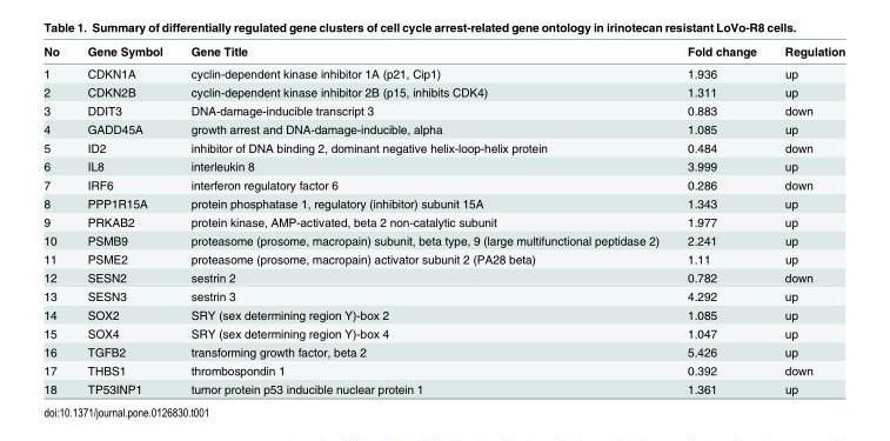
<table><thead><tr><td>No</td><td>Gene Symbol</td><td>Gene Title</td><td>Fold change</td><td>Regulation</td></tr></thead><tbody><tr><td>1</td><td>CDKN1A</td><td>cyclin-dependent kinase inhibitor 1A (p21, Cip1)</td><td>1.936</td><td>up</td></tr><tr><td>2</td><td>CDKN2B</td><td>cyclin-dependent kinase inhibitor 2B (p15, inhibits CDK4)</td><td>1.311</td><td>up</td></tr><tr><td>3</td><td>DDIT3</td><td>DNA-damage-inducible transcript 3</td><td>0.883</td><td>down</td></tr><tr><td>4</td><td>GADD45A</td><td>growth arrest and DNA-damage-inducible, alpha</td><td>1.085</td><td>up</td></tr><tr><td>5</td><td>ID2</td><td>inhibitor of DNA binding 2, dominant negative helix-loop-helix protein</td><td>0.484</td><td>down</td></tr><tr><td>6</td><td>IL8</td><td>interleukin 8</td><td>3.999</td><td>up</td></tr><tr><td>7</td><td>IRF6</td><td>interferon regulatory factor 6</td><td>0.286</td><td>down</td></tr><tr><td>8</td><td>PPP1R15A</td><td>protein phosphatase 1, regulatory (inhibitor) subunit 15A</td><td>1.343</td><td>up</td></tr><tr><td>9</td><td>PRKAB2</td><td>protein kinase, AMP-activated, beta 2 non-catalytic subunit</td><td>1.977</td><td>up</td></tr><tr><td>10</td><td>PSMB9</td><td>proteasome (prosome, macropain) subunit, beta type, 9 (large multifunctional peptidase 2)</td><td>2.241</td><td>up</td></tr><tr><td>11</td><td>PSME2</td><td>proteasome (prosome, macropain) activator subunit 2 (PA28 beta)</td><td>1.11</td><td>up</td></tr><tr><td>12</td><td>SESN2</td><td>sestrin 2</td><td>0.782</td><td>down</td></tr><tr><td>13</td><td>SESN3</td><td>sestrin 3</td><td>4.292</td><td>up</td></tr><tr><td>14</td><td>SOX2</td><td>SRY (sex determining region Y)-box 2</td><td>1.085</td><td>up</td></tr><tr><td>15</td><td>SOX4</td><td>SRY (sex determining region Y)-box 4</td><td>1.047</td><td>up</td></tr><tr><td>16</td><td>TGFB2</td><td>transforming growth factor, beta 2</td><td>5.426</td><td>up</td></tr><tr><td>17</td><td>THBS1</td><td>thrombospondin 1</td><td>0.392</td><td>down</td></tr><tr><td>18</td><td>TP53INP1</td><td>tumor protein p53 inducible nuclear protein 1</td><td>1.361</td><td>up</td></tr></tbody></table>